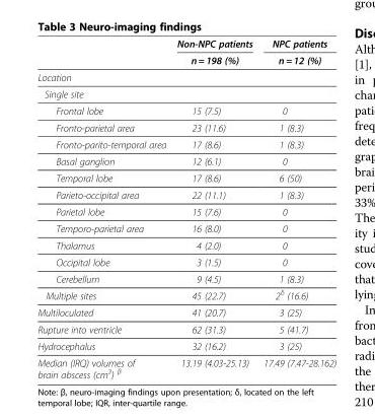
<table><thead><tr><td rowspan="2"></td><td rowspan="2">Non-NPC patients n = 198 (%)</td><td rowspan="2">NPC patients n = 12 (%)</td></tr><tr></tr></thead><tbody><tr><td colspan="3">Location</td></tr><tr><td colspan="3">Single site</td></tr><tr><td>Frontal lobe</td><td>15 (7.5)</td><td>0</td></tr><tr><td>Fronto-parietal area</td><td>23 (11.6)</td><td>1 (8.3)</td></tr><tr><td>Fronto-parito-temporal area</td><td>17 (8.6)</td><td>1 (8.3)</td></tr><tr><td>Basal ganglion</td><td>12 (6.1)</td><td>0</td></tr><tr><td>Temporal lobe</td><td>17 (8.6)</td><td>6 (50)</td></tr><tr><td>Parieto-occipital area</td><td>22 (11.1)</td><td>1 (8.3)</td></tr><tr><td>Parietal lobe</td><td>15 (7.6)</td><td>0</td></tr><tr><td>Temporo-parietal area</td><td>16 (8.0)</td><td>0</td></tr><tr><td>Thalamus</td><td>4 (2.0)</td><td>0</td></tr><tr><td>Occipital lobe</td><td>3 (1.5)</td><td>0</td></tr><tr><td>Cerebellum</td><td>9 (4.5)</td><td>1 (8.3)</td></tr><tr><td>Multiple sites</td><td>45 (22.7)</td><td>2<sup>δ</sup> (16.6)</td></tr><tr><td>Multiloculated</td><td>41 (20.7)</td><td>3 (25)</td></tr><tr><td>Rupture into ventricle</td><td>62 (31.3)</td><td>5 (41.7)</td></tr><tr><td>Hydrocephalus</td><td>32 (16.2)</td><td>3 (25)</td></tr><tr><td>Median (IRQ) volumes of brain abscess (cm<sup>3</sup>) <sup>β</sup></td><td>13.19 (4.03-25.13)</td><td>17.49 (7.47-28.162)</td></tr></tbody></table>